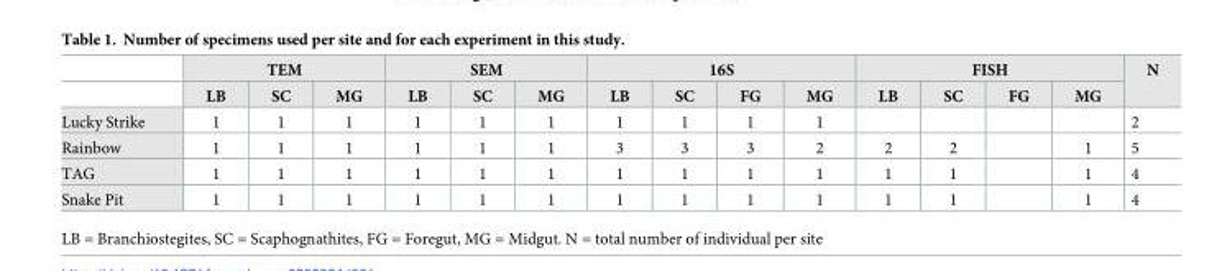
<table><thead><tr><td rowspan="2"></td><td colspan="3">TEM</td><td colspan="3">SEM</td><td colspan="4">16S</td><td colspan="4">FISH</td><td rowspan="2">N</td></tr><tr><td>LB</td><td>SC</td><td>MG</td><td>LB</td><td>SC</td><td>MG</td><td>LB</td><td>SC</td><td>FG</td><td>MG</td><td>LB</td><td>SC</td><td>FG</td><td>MG</td></tr></thead><tbody><tr><td>Lucky Strike</td><td>1</td><td>1</td><td>1</td><td>1</td><td>1</td><td>1</td><td>1</td><td>1</td><td>1</td><td>1</td><td></td><td></td><td></td><td></td><td>2</td></tr><tr><td>Rainbow</td><td>1</td><td>1</td><td>1</td><td>1</td><td>1</td><td>1</td><td>3</td><td>3</td><td>3</td><td>2</td><td>2</td><td>2</td><td></td><td>1</td><td>5</td></tr><tr><td>TAG</td><td>1</td><td>1</td><td>1</td><td>1</td><td>1</td><td>1</td><td>1</td><td>1</td><td>1</td><td>1</td><td>1</td><td>1</td><td></td><td>1</td><td>4</td></tr><tr><td>Snake Pit</td><td>1</td><td>1</td><td>1</td><td>1</td><td>1</td><td>1</td><td>1</td><td>1</td><td>1</td><td>1</td><td>1</td><td>1</td><td></td><td>1</td><td>4</td></tr></tbody></table>